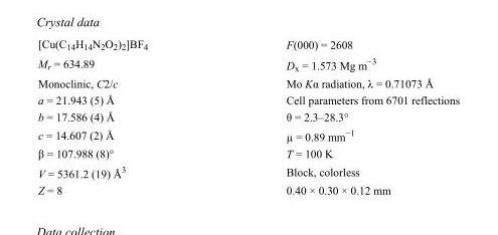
<table><tbody><tr><td>[Cu(C<sub>14</sub>H<sub>14</sub>N<sub>2</sub>O<sub>2</sub>)<sub>2</sub>]BF<sub>4</sub></td><td>F(000) = 2608</td></tr><tr><td>M<sub>r</sub> = 634.89</td><td>D<sub>x</sub> = 1.573 Mg m<sup>−3</sup></td></tr><tr><td>Monoclinic, C2/c</td><td>Mo Kα radiation, λ = 0.71073 Å</td></tr><tr><td>a = 21.943 (5) Å</td><td>Cell parameters from 6701 reflections</td></tr><tr><td>b = 17.586 (4) Å</td><td>θ = 2.3–28.3°</td></tr><tr><td>c = 14.607 (2) Å</td><td>µ = 0.89 mm<sup>−1</sup></td></tr><tr><td>β = 107.988 (8)°</td><td>T = 100 K</td></tr><tr><td>V = 5361.2 (19) Å<sup>3</sup></td><td>Block, colorless</td></tr><tr><td>Z = 8</td><td>0.40 × 0.30 × 0.12 mm</td></tr></tbody></table>